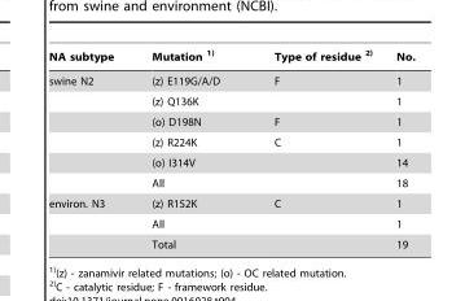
<table><thead><tr><td>NA subtype</td><td>Mutation 1)</td><td>Type of residue 2)</td><td>No.</td></tr></thead><tbody><tr><td rowspan="6">swine N2</td><td>(z) E119G/A/D</td><td>F</td><td>1</td></tr><tr><td>(z) Q136K</td><td></td><td>1</td></tr><tr><td>(o) D198N</td><td>F</td><td>1</td></tr><tr><td>(z) R224K</td><td>C</td><td>1</td></tr><tr><td>(o) I314V</td><td></td><td>14</td></tr><tr><td>All</td><td></td><td>18</td></tr><tr><td rowspan="3">environ. N3</td><td>(z) R152K</td><td>C</td><td>1</td></tr><tr><td>All</td><td></td><td>1</td></tr><tr><td>Total</td><td></td><td>19</td></tr></tbody></table>